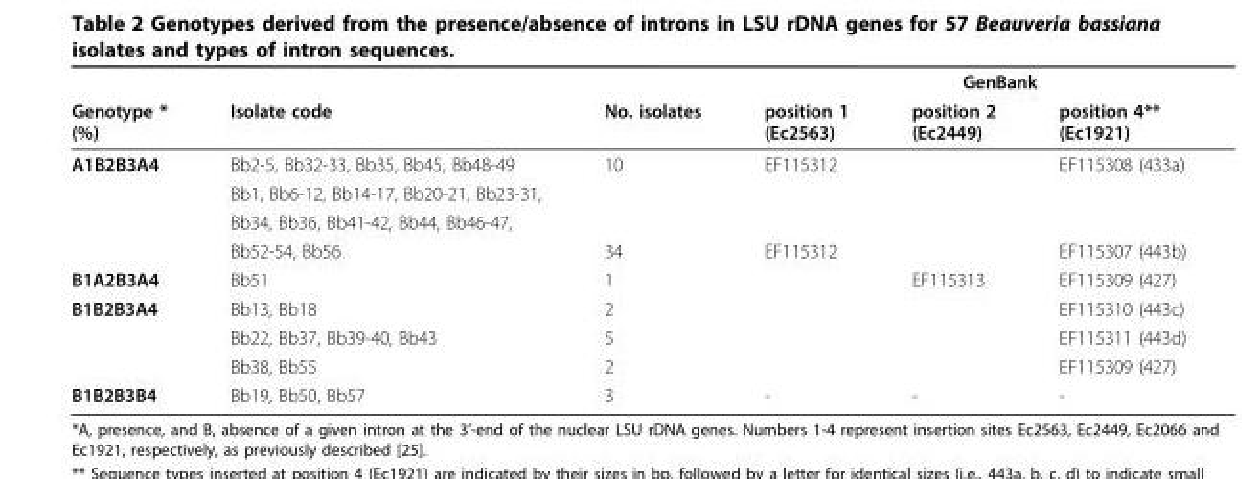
<table><thead><tr><td rowspan="2">Genotype * (%)</td><td rowspan="2">Isolate code</td><td rowspan="2">No. isolates</td><td colspan="3">GenBank</td></tr><tr><td>position 1 (Ec2563)</td><td>position 2 (Ec2449)</td><td>position 4** (Ec1921)</td></tr></thead><tbody><tr><td rowspan="4">A1B2B3A4</td><td>Bb2-5, Bb32-33, Bb35, Bb45, Bb48-49</td><td>10</td><td>EF115312</td><td></td><td>EF115308 (433a)</td></tr><tr><td>Bb1, Bb6-12, Bb14-17, Bb20-21, Bb23-31,</td><td></td><td></td><td></td><td></td></tr><tr><td>Bb34, Bb36, Bb41-42, Bb44, Bb46-47,</td><td></td><td></td><td></td><td></td></tr><tr><td>Bb52-54, Bb56</td><td>34</td><td>EF115312</td><td></td><td>EF115307 (443b)</td></tr><tr><td>B1A2B3A4</td><td>Bb51</td><td>1</td><td></td><td>EF115313</td><td>EF115309 (427)</td></tr><tr><td rowspan="3">B1B2B3A4</td><td>Bb13, Bb18</td><td>2</td><td></td><td></td><td>EF115310 (443c)</td></tr><tr><td>Bb22, Bb37, Bb39-40, Bb43</td><td>5</td><td></td><td></td><td>EF115311 (443d)</td></tr><tr><td>Bb38, Bb55</td><td>2</td><td></td><td></td><td>EF115309 (427)</td></tr><tr><td>B1B2B3B4</td><td>Bb19, Bb50, Bb57</td><td>3</td><td>-</td><td>-</td><td>-</td></tr></tbody></table>